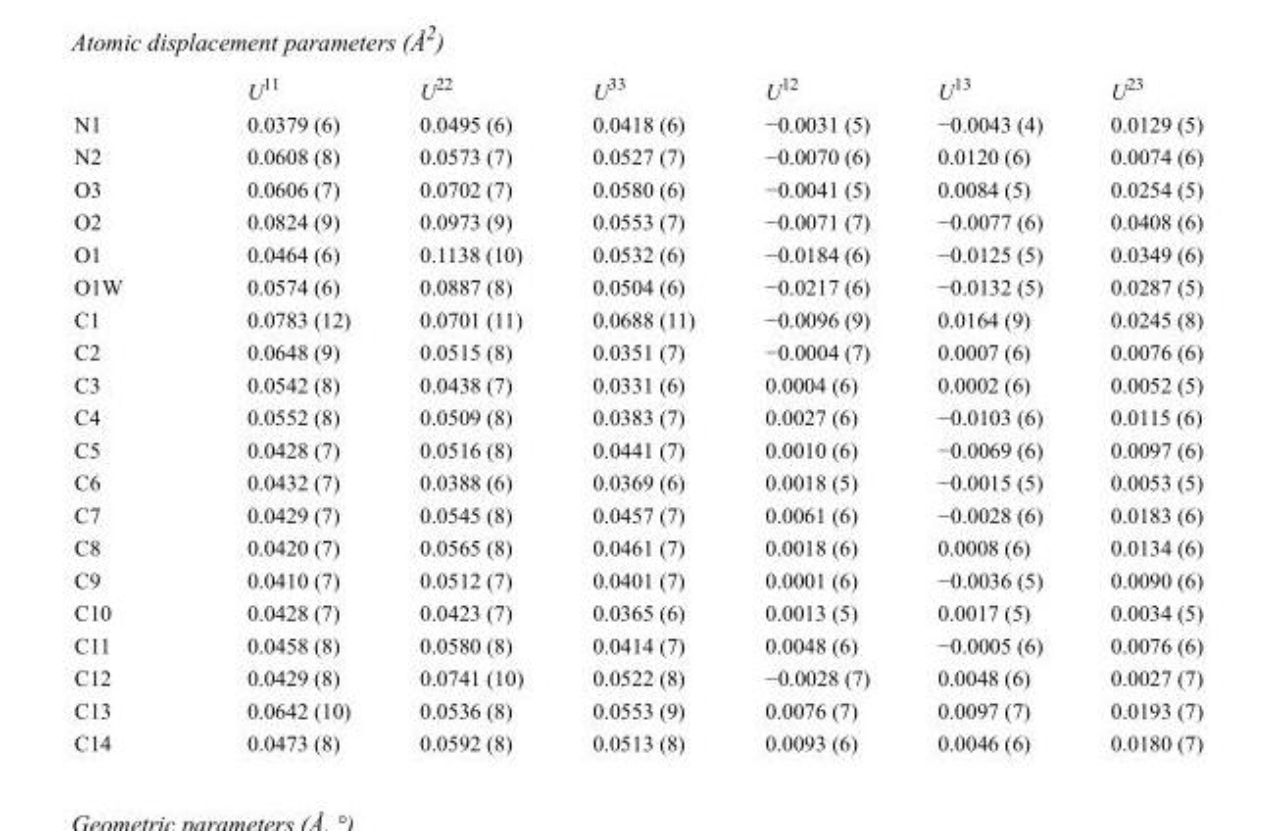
<table><thead><tr><td></td><td>U<sup>11</sup></td><td>U<sup>22</sup></td><td>U<sup>33</sup></td><td>U<sup>12</sup></td><td>U<sup>13</sup></td><td>U<sup>23</sup></td></tr></thead><tbody><tr><td>N1</td><td>0.0379 (6)</td><td>0.0495 (6)</td><td>0.0418 (6)</td><td>−0.0031 (5)</td><td>−0.0043 (4)</td><td>0.0129 (5)</td></tr><tr><td>N2</td><td>0.0608 (8)</td><td>0.0573 (7)</td><td>0.0527 (7)</td><td>−0.0070 (6)</td><td>0.0120 (6)</td><td>0.0074 (6)</td></tr><tr><td>O3</td><td>0.0606 (7)</td><td>0.0702 (7)</td><td>0.0580 (6)</td><td>−0.0041 (5)</td><td>0.0084 (5)</td><td>0.0254 (5)</td></tr><tr><td>O2</td><td>0.0824 (9)</td><td>0.0973 (9)</td><td>0.0553 (7)</td><td>−0.0071 (7)</td><td>−0.0077 (6)</td><td>0.0408 (6)</td></tr><tr><td>O1</td><td>0.0464 (6)</td><td>0.1138 (10)</td><td>0.0532 (6)</td><td>−0.0184 (6)</td><td>−0.0125 (5)</td><td>0.0349 (6)</td></tr><tr><td>O1W</td><td>0.0574 (6)</td><td>0.0887 (8)</td><td>0.0504 (6)</td><td>−0.0217 (6)</td><td>−0.0132 (5)</td><td>0.0287 (5)</td></tr><tr><td>C1</td><td>0.0783 (12)</td><td>0.0701 (11)</td><td>0.0688 (11)</td><td>−0.0096 (9)</td><td>0.0164 (9)</td><td>0.0245 (8)</td></tr><tr><td>C2</td><td>0.0648 (9)</td><td>0.0515 (8)</td><td>0.0351 (7)</td><td>−0.0004 (7)</td><td>0.0007 (6)</td><td>0.0076 (6)</td></tr><tr><td>C3</td><td>0.0542 (8)</td><td>0.0438 (7)</td><td>0.0331 (6)</td><td>0.0004 (6)</td><td>0.0002 (6)</td><td>0.0052 (5)</td></tr><tr><td>C4</td><td>0.0552 (8)</td><td>0.0509 (8)</td><td>0.0383 (7)</td><td>0.0027 (6)</td><td>−0.0103 (6)</td><td>0.0115 (6)</td></tr><tr><td>C5</td><td>0.0428 (7)</td><td>0.0516 (8)</td><td>0.0441 (7)</td><td>0.0010 (6)</td><td>−0.0069 (6)</td><td>0.0097 (6)</td></tr><tr><td>C6</td><td>0.0432 (7)</td><td>0.0388 (6)</td><td>0.0369 (6)</td><td>0.0018 (5)</td><td>−0.0015 (5)</td><td>0.0053 (5)</td></tr><tr><td>C7</td><td>0.0429 (7)</td><td>0.0545 (8)</td><td>0.0457 (7)</td><td>0.0061 (6)</td><td>−0.0028 (6)</td><td>0.0183 (6)</td></tr><tr><td>C8</td><td>0.0420 (7)</td><td>0.0565 (8)</td><td>0.0461 (7)</td><td>0.0018 (6)</td><td>0.0008 (6)</td><td>0.0134 (6)</td></tr><tr><td>C9</td><td>0.0410 (7)</td><td>0.0512 (7)</td><td>0.0401 (7)</td><td>0.0001 (6)</td><td>−0.0036 (5)</td><td>0.0090 (6)</td></tr><tr><td>C10</td><td>0.0428 (7)</td><td>0.0423 (7)</td><td>0.0365 (6)</td><td>0.0013 (5)</td><td>0.0017 (5)</td><td>0.0034 (5)</td></tr><tr><td>C11</td><td>0.0458 (8)</td><td>0.0580 (8)</td><td>0.0414 (7)</td><td>0.0048 (6)</td><td>−0.0005 (6)</td><td>0.0076 (6)</td></tr><tr><td>C12</td><td>0.0429 (8)</td><td>0.0741 (10)</td><td>0.0522 (8)</td><td>−0.0028 (7)</td><td>0.0048 (6)</td><td>0.0027 (7)</td></tr><tr><td>C13</td><td>0.0642 (10)</td><td>0.0536 (8)</td><td>0.0553 (9)</td><td>0.0076 (7)</td><td>0.0097 (7)</td><td>0.0193 (7)</td></tr><tr><td>C14</td><td>0.0473 (8)</td><td>0.0592 (8)</td><td>0.0513 (8)</td><td>0.0093 (6)</td><td>0.0046 (6)</td><td>0.0180 (7)</td></tr></tbody></table>